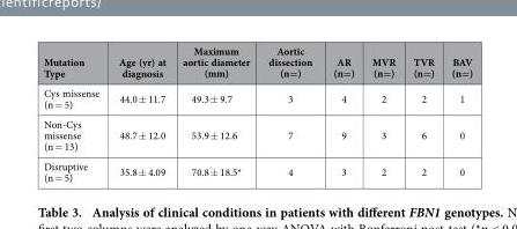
<table><thead><tr><td>Mutation Type</td><td>Age (yr) at diagnosis</td><td>Maximum aortic diameter (mm)</td><td>Aortic dissection (n=)</td><td>AR (n=)</td><td>MVR (n=)</td><td>TVR (n=)</td><td>BAV (n=)</td></tr></thead><tbody><tr><td>Cys missense (n = 5)</td><td>44.0 ± 11.7</td><td>49.3 ± 9.7</td><td>3</td><td>4</td><td>2</td><td>2</td><td>1</td></tr><tr><td>Non-Cys missense (n = 13)</td><td>48.7 ± 12.0</td><td>53.9 ± 12.6</td><td>7</td><td>9</td><td>3</td><td>6</td><td>0</td></tr><tr><td>Disruptive (n = 5)</td><td>35.8 ± 4.09</td><td>70.8 ± 18.5*</td><td>4</td><td>3</td><td>2</td><td>2</td><td>0</td></tr></tbody></table>